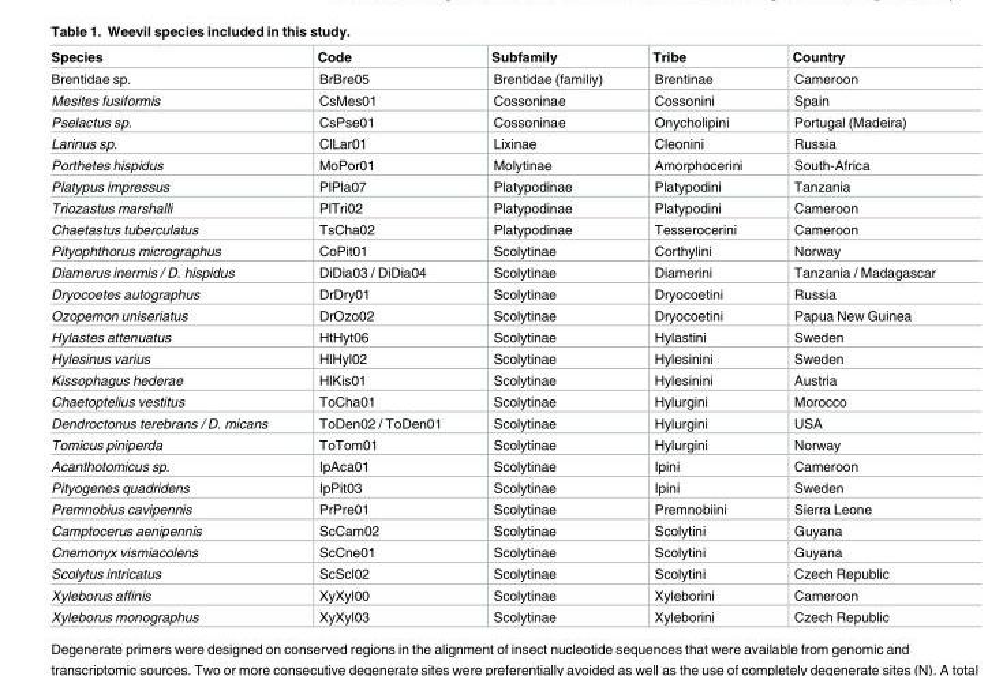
<table><thead><tr><td>Species</td><td>Code</td><td>Subfamily</td><td>Tribe</td><td>Country</td></tr></thead><tbody><tr><td>Brentidae sp.</td><td>BrBre05</td><td>Brentidae (familiy)</td><td>Brentinae</td><td>Cameroon</td></tr><tr><td>Mesites fusiformis</td><td>CsMes01</td><td>Cossoninae</td><td>Cossonini</td><td>Spain</td></tr><tr><td>Pselactus sp.</td><td>CsPse01</td><td>Cossoninae</td><td>Onycholipini</td><td>Portugal (Madeira)</td></tr><tr><td>Larinus sp.</td><td>ClLar01</td><td>Lixinae</td><td>Cleonini</td><td>Russia</td></tr><tr><td>Porthetes hispidus</td><td>MoPor01</td><td>Molytinae</td><td>Amorphocerini</td><td>South-Africa</td></tr><tr><td>Platypus impressus</td><td>PlPla07</td><td>Platypodinae</td><td>Platypodini</td><td>Tanzania</td></tr><tr><td>Triozastus marshalli</td><td>PlTri02</td><td>Platypodinae</td><td>Platypodini</td><td>Cameroon</td></tr><tr><td>Chaetastus tuberculatus</td><td>TsCha02</td><td>Platypodinae</td><td>Tesserocerini</td><td>Cameroon</td></tr><tr><td>Pityophthorus micrographus</td><td>CoPit01</td><td>Scolytinae</td><td>Corthylini</td><td>Norway</td></tr><tr><td>Diamerus inermis / D. hispidus</td><td>DiDia03 / DiDia04</td><td>Scolytinae</td><td>Diamerini</td><td>Tanzania / Madagascar</td></tr><tr><td>Dryocoetes autographus</td><td>DrDry01</td><td>Scolytinae</td><td>Dryocoetini</td><td>Russia</td></tr><tr><td>Ozopemon uniseriatus</td><td>DrOzo02</td><td>Scolytinae</td><td>Dryocoetini</td><td>Papua New Guinea</td></tr><tr><td>Hylastes attenuatus</td><td>HtHyt06</td><td>Scolytinae</td><td>Hylastini</td><td>Sweden</td></tr><tr><td>Hylesinus varius</td><td>HlHyl02</td><td>Scolytinae</td><td>Hylesinini</td><td>Sweden</td></tr><tr><td>Kissophagus hederae</td><td>HlKis01</td><td>Scolytinae</td><td>Hylesinini</td><td>Austria</td></tr><tr><td>Chaetoptelius vestitus</td><td>ToCha01</td><td>Scolytinae</td><td>Hylurgini</td><td>Morocco</td></tr><tr><td>Dendroctonus terebrans / D. micans</td><td>ToDen02 / ToDen01</td><td>Scolytinae</td><td>Hylurgini</td><td>USA</td></tr><tr><td>Tomicus piniperda</td><td>ToTom01</td><td>Scolytinae</td><td>Hylurgini</td><td>Norway</td></tr><tr><td>Acanthotomicus sp.</td><td>IpAca01</td><td>Scolytinae</td><td>Ipini</td><td>Cameroon</td></tr><tr><td>Pityogenes quadridens</td><td>IpPit03</td><td>Scolytinae</td><td>Ipini</td><td>Sweden</td></tr><tr><td>Premnobius cavipennis</td><td>PrPre01</td><td>Scolytinae</td><td>Premnobiini</td><td>Sierra Leone</td></tr><tr><td>Camptocerus aenipennis</td><td>ScCam02</td><td>Scolytinae</td><td>Scolytini</td><td>Guyana</td></tr><tr><td>Cnemonyx vismiacolens</td><td>ScCne01</td><td>Scolytinae</td><td>Scolytini</td><td>Guyana</td></tr><tr><td>Scolytus intricatus</td><td>ScScl02</td><td>Scolytinae</td><td>Scolytini</td><td>Czech Republic</td></tr><tr><td>Xyleborus affinis</td><td>XyXyl00</td><td>Scolytinae</td><td>Xyleborini</td><td>Cameroon</td></tr><tr><td>Xyleborus monographus</td><td>XyXyl03</td><td>Scolytinae</td><td>Xyleborini</td><td>Czech Republic</td></tr></tbody></table>